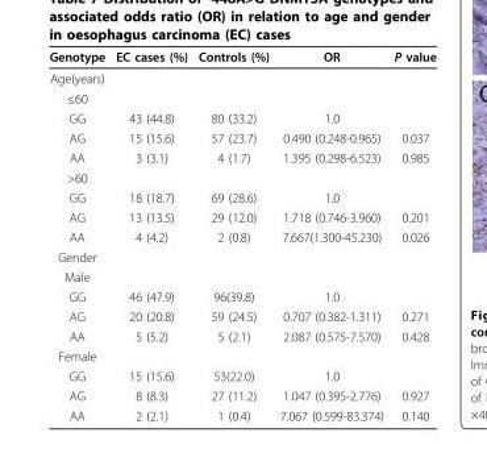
<table><thead><tr><td>Genotype</td><td>EC cases (%)</td><td>Controls (%)</td><td>OR</td><td>P value</td></tr></thead><tbody><tr><td colspan="5">Age(years)</td></tr><tr><td colspan="5">≤60</td></tr><tr><td>GG</td><td>43 (44.8)</td><td>80 (33.2)</td><td>1.0</td><td></td></tr><tr><td>AG</td><td>15 (15.6)</td><td>57 (23.7)</td><td>0.490 (0.248-0.965)</td><td>0.037</td></tr><tr><td>AA</td><td>3 (3.1)</td><td>4 (1.7)</td><td>1.395 (0.298-6.523)</td><td>0.985</td></tr><tr><td colspan="5">&gt;60</td></tr><tr><td>GG</td><td>18 (18.7)</td><td>69 (28.6)</td><td>1.0</td><td></td></tr><tr><td>AG</td><td>13 (13.5)</td><td>29 (12.0)</td><td>1.718 (0.746-3.960)</td><td>0.201</td></tr><tr><td>AA</td><td>4 (4.2)</td><td>2 (0.8)</td><td>7.667(1.300-45.230)</td><td>0.026</td></tr><tr><td colspan="5">Gender</td></tr><tr><td colspan="5">Male</td></tr><tr><td>GG</td><td>46 (47.9)</td><td>96(39.8)</td><td>1.0</td><td></td></tr><tr><td>AG</td><td>20 (20.8)</td><td>59 (24.5)</td><td>0.707 (0.382-1.311)</td><td>0.271</td></tr><tr><td>AA</td><td>5 (5.2)</td><td>5 (2.1)</td><td>2.087 (0.575-7.570)</td><td>0.428</td></tr><tr><td colspan="5">Female</td></tr><tr><td>GG</td><td>15 (15.6)</td><td>53(22.0)</td><td>1.0</td><td></td></tr><tr><td>AG</td><td>8 (8.3)</td><td>27 (11.2)</td><td>1.047 (0.395-2.776)</td><td>0.927</td></tr><tr><td>AA</td><td>2 (2.1)</td><td>1 (0.4)</td><td>7.067 (0.599-83.374)</td><td>0.140</td></tr></tbody></table>